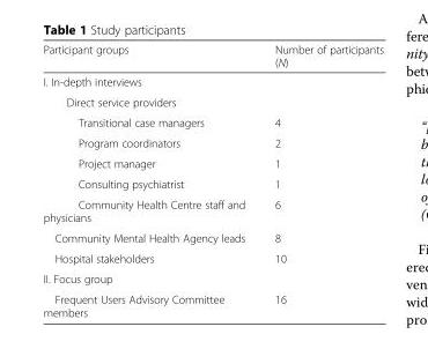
<table><thead><tr><td>Participant groups</td><td>Number of participants (N)</td></tr></thead><tbody><tr><td colspan="2">I. In-depth interviews</td></tr><tr><td colspan="2">Direct service providers</td></tr><tr><td>Transitional case managers</td><td>4</td></tr><tr><td>Program coordinators</td><td>2</td></tr><tr><td>Project manager</td><td>1</td></tr><tr><td>Consulting psychiatrist</td><td>1</td></tr><tr><td>Community Health Centre staff and physicians</td><td>6</td></tr><tr><td>Community Mental Health Agency leads</td><td>8</td></tr><tr><td>Hospital stakeholders</td><td>10</td></tr><tr><td colspan="2">II. Focus group</td></tr><tr><td>Frequent Users Advisory Committee members</td><td>16</td></tr></tbody></table>